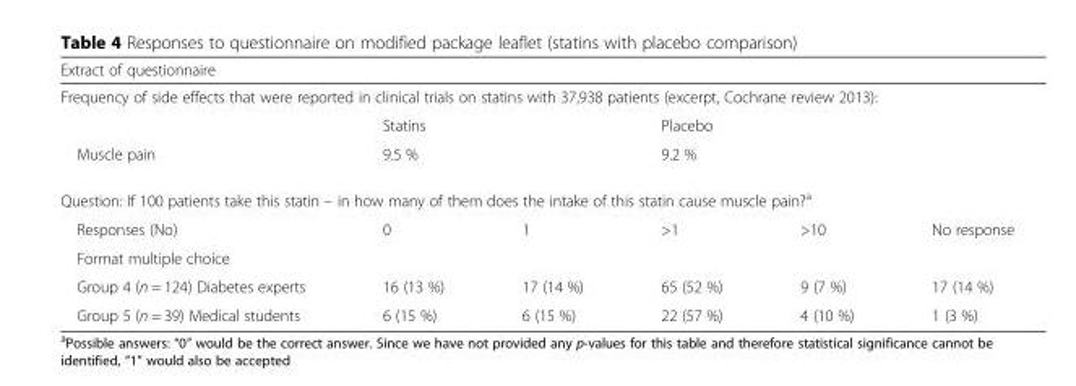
<table><thead><tr><td colspan="6">Extract of questionnaire</td></tr></thead><tbody><tr><td colspan="6">Frequency of side effects that were reported in clinical trials on statins with 37,938 patients (excerpt, Cochrane review 2013):</td></tr><tr><td></td><td colspan="2">Statins</td><td colspan="3">Placebo</td></tr><tr><td>Muscle pain</td><td colspan="2">9.5 %</td><td colspan="3">9.2 %</td></tr><tr><td colspan="6">Question: If 100 patients take this statin – in how many of them does the intake of this statin cause muscle pain?<sup>a</sup></td></tr><tr><td>Responses (No)</td><td rowspan="2">0</td><td rowspan="2">1</td><td rowspan="2">&gt;1</td><td rowspan="2">&gt;10</td><td rowspan="2">No response</td></tr><tr><td>Format multiple choice</td></tr><tr><td>Group 4 (n = 124) Diabetes experts</td><td>16 (13 %)</td><td>17 (14 %)</td><td>65 (52 %)</td><td>9 (7 %)</td><td>17 (14 %)</td></tr><tr><td>Group 5 (n = 39) Medical students</td><td>6 (15 %)</td><td>6 (15 %)</td><td>22 (57 %)</td><td>4 (10 %)</td><td>1 (3 %)</td></tr></tbody></table>